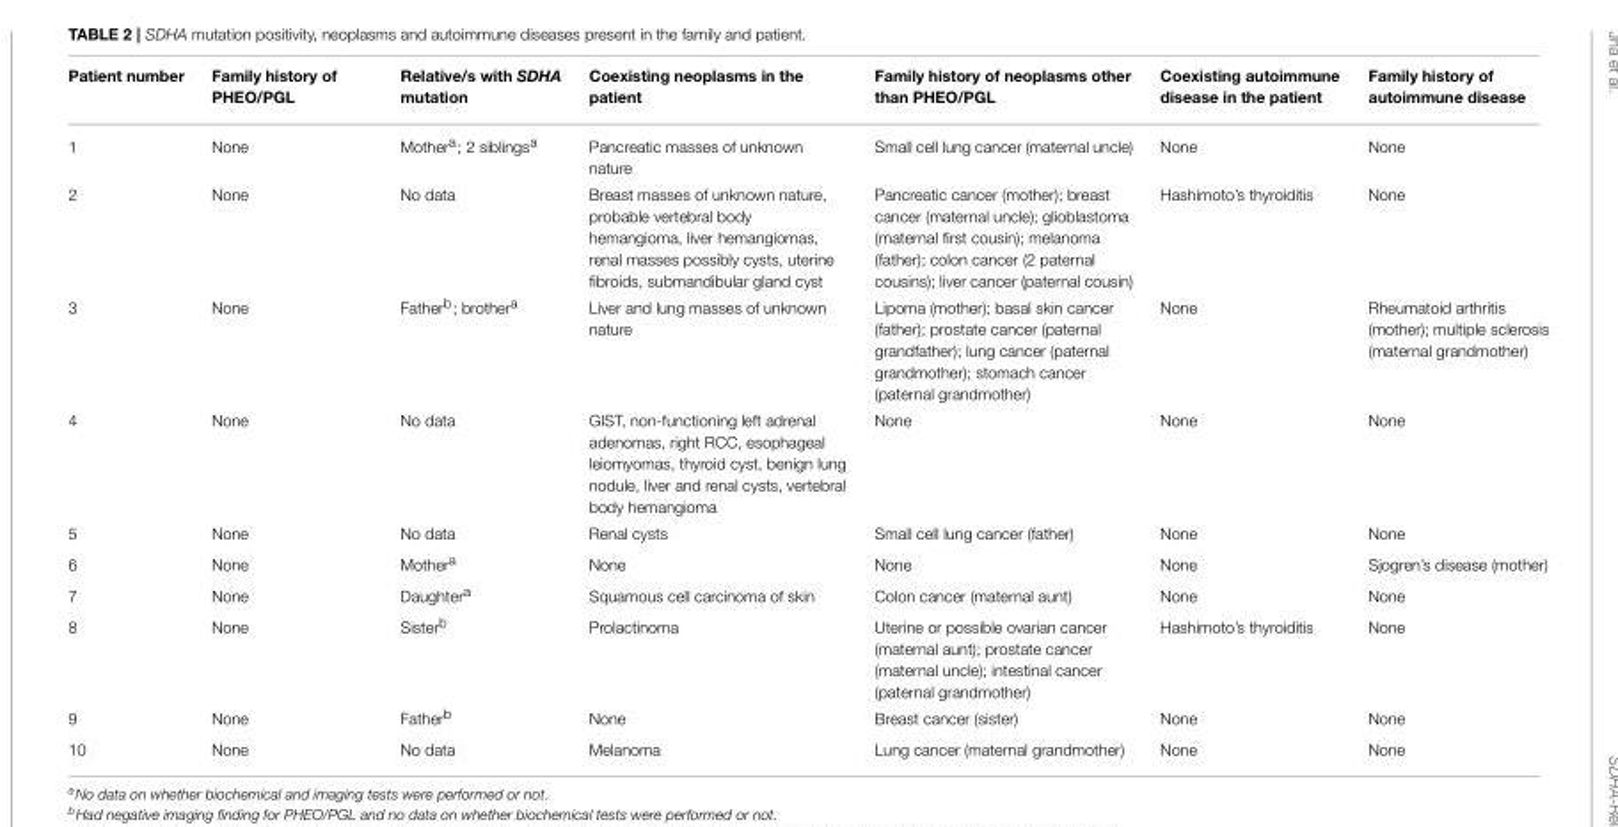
<table><thead><tr><td>Patient number</td><td>Family history of PHEO/PGL</td><td>Relative/s with SDHA mutation</td><td>Coexisting neoplasms in the patient</td><td>Family history of neoplasms other than PHEO/PGL</td><td>Coexisting autoimmune disease in the patient</td><td>Family history of autoimmune disease</td></tr></thead><tbody><tr><td>1</td><td>None</td><td>Mother<sup>a</sup>; 2 siblings<sup>a</sup></td><td>Pancreatic masses of unknown nature</td><td>Small cell lung cancer (maternal uncle)</td><td>None</td><td>None</td></tr><tr><td>2</td><td>None</td><td>No data</td><td>Breast masses of unknown nature, probable vertebral body hemangioma, liver hemangiomas, renal masses possibly cysts, uterine fibroids, submandibular gland cyst</td><td>Pancreatic cancer (mother); breast cancer (maternal uncle); glioblastoma (maternal first cousin); melanoma (father); colon cancer (2 paternal cousins); liver cancer (paternal cousin)</td><td>Hashimoto’s thyroiditis</td><td>None</td></tr><tr><td>3</td><td>None</td><td>Father<sup>b</sup>; brother<sup>a</sup></td><td>Liver and lung masses of unknown nature</td><td>Lipoma (mother); basal skin cancer (father); prostate cancer (paternal grandfather); lung cancer (paternal grandmother); stomach cancer (paternal grandmother)</td><td>None</td><td>Rheumatoid arthritis (mother); multiple sclerosis (maternal grandmother)</td></tr><tr><td>4</td><td>None</td><td>No data</td><td>GIST, non-functioning left adrenal adenomas, right RCC, esophageal leiomyomas, thyroid cyst, benign lung nodule, liver and renal cysts, vertebral body hemangioma</td><td>None</td><td>None</td><td>None</td></tr><tr><td>5</td><td>None</td><td>No data</td><td>Renal cysts</td><td>Small cell lung cancer (father)</td><td>None</td><td>None</td></tr><tr><td>6</td><td>None</td><td>Mother<sup>a</sup></td><td>None</td><td>None</td><td>None</td><td>Sjogren’s disease (mother)</td></tr><tr><td>7</td><td>None</td><td>Daughter<sup>a</sup></td><td>Squamous cell carcinoma of skin</td><td>Colon cancer (maternal aunt)</td><td>None</td><td>None</td></tr><tr><td>8</td><td>None</td><td>Sister<sup>b</sup></td><td>Prolactinoma</td><td>Uterine or possible ovarian cancer (maternal aunt); prostate cancer (maternal uncle); intestinal cancer (paternal grandmother)</td><td>Hashimoto’s thyroiditis</td><td>None</td></tr><tr><td>9</td><td>None</td><td>Father<sup>b</sup></td><td>None</td><td>Breast cancer (sister)</td><td>None</td><td>None</td></tr><tr><td>10</td><td>None</td><td>No data</td><td>Melanoma</td><td>Lung cancer (maternal grandmother)</td><td>None</td><td>None</td></tr></tbody></table>